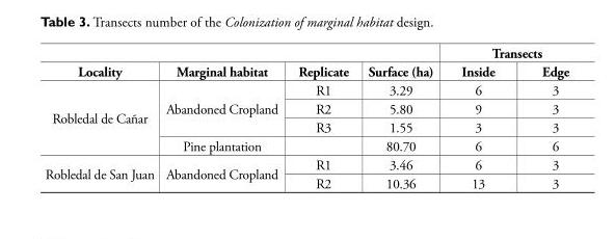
<table><thead><tr><td rowspan="2">Locality</td><td rowspan="2">Marginal habitat</td><td rowspan="2">Replicate</td><td rowspan="2">Surface (ha)</td><td colspan="2">Transects</td></tr><tr><td>Inside</td><td>Edge</td></tr></thead><tbody><tr><td rowspan="4">Robledal de Cañar</td><td rowspan="3">Abandoned Cropland</td><td>R1</td><td>3.29</td><td>6</td><td>3</td></tr><tr><td>R2</td><td>5.80</td><td>9</td><td>3</td></tr><tr><td>R3</td><td>1.55</td><td>3</td><td>3</td></tr><tr><td>Pine plantation</td><td></td><td>80.70</td><td>6</td><td>6</td></tr><tr><td rowspan="2">Robledal de San Juan</td><td rowspan="2">Abandoned Cropland</td><td>R1</td><td>3.46</td><td>6</td><td>3</td></tr><tr><td>R2</td><td>10.36</td><td>13</td><td>3</td></tr></tbody></table>